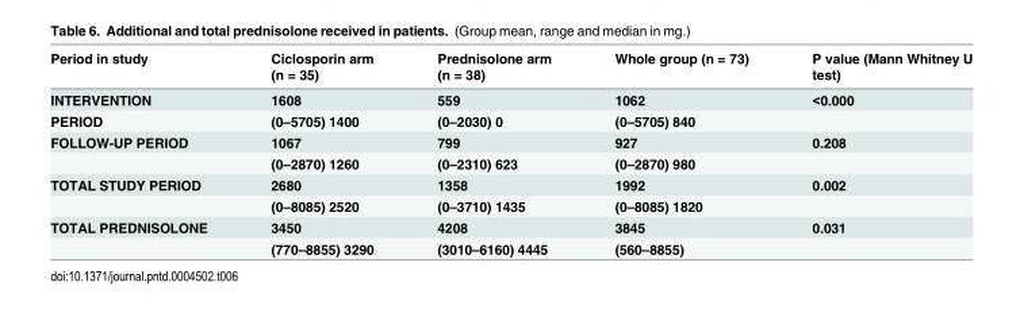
<table><thead><tr><td rowspan="2">Period in study</td><td rowspan="2">Ciclosporin arm (n = 35)</td><td rowspan="2">Prednisolone arm (n = 38)</td><td rowspan="2">Whole group (n = 73)</td><td rowspan="2">P value (Mann Whitney U test)</td></tr><tr></tr></thead><tbody><tr><td>INTERVENTION</td><td>1608</td><td>559</td><td>1062</td><td>&lt;0.000</td></tr><tr><td>PERIOD</td><td>(0–5705) 1400</td><td>(0–2030) 0</td><td>(0–5705) 840</td><td></td></tr><tr><td rowspan="2">FOLLOW-UP PERIOD</td><td>1067</td><td>799</td><td>927</td><td>0.208</td></tr><tr><td>(0–2870) 1260</td><td>(0–2310) 623</td><td>(0–2870) 980</td><td></td></tr><tr><td rowspan="2">TOTAL STUDY PERIOD</td><td>2680</td><td>1358</td><td>1992</td><td>0.002</td></tr><tr><td>(0–8085) 2520</td><td>(0–3710) 1435</td><td>(0–8085) 1820</td><td></td></tr><tr><td rowspan="2">TOTAL PREDNISOLONE</td><td>3450</td><td>4208</td><td>3845</td><td>0.031</td></tr><tr><td>(770–8855) 3290</td><td>(3010–6160) 4445</td><td>(560–8855)</td><td></td></tr></tbody></table>